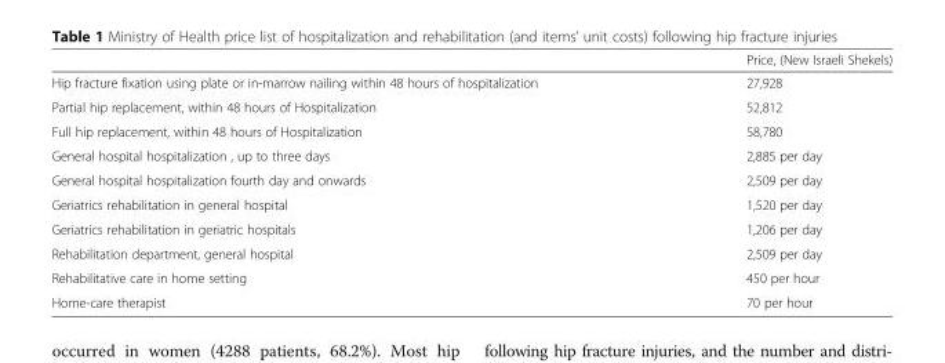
<table><thead><tr><td></td><td>Price, (New Israeli Shekels)</td></tr></thead><tbody><tr><td>Hip fracture fixation using plate or in-marrow nailing within 48 hours of hospitalization</td><td>27,928</td></tr><tr><td>Partial hip replacement, within 48 hours of Hospitalization</td><td>52,812</td></tr><tr><td>Full hip replacement, within 48 hours of Hospitalization</td><td>58,780</td></tr><tr><td>General hospital hospitalization , up to three days</td><td>2,885 per day</td></tr><tr><td>General hospital hospitalization fourth day and onwards</td><td>2,509 per day</td></tr><tr><td>Geriatrics rehabilitation in general hospital</td><td>1,520 per day</td></tr><tr><td>Geriatrics rehabilitation in geriatric hospitals</td><td>1,206 per day</td></tr><tr><td>Rehabilitation department, general hospital</td><td>2,509 per day</td></tr><tr><td>Rehabilitative care in home setting</td><td>450 per hour</td></tr><tr><td>Home-care therapist</td><td>70 per hour</td></tr></tbody></table>